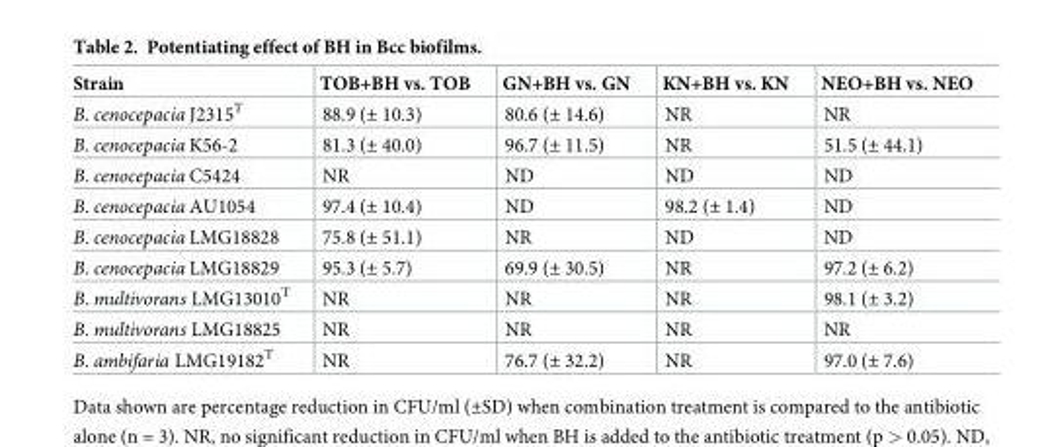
<table><thead><tr><td>Strain</td><td>TOB+BH vs. TOB</td><td>GN+BH vs. GN</td><td>KN+BH vs. KN</td><td>NEO+BH vs. NEO</td></tr></thead><tbody><tr><td>B. cenocepacia J2315<sup>T</sup></td><td>88.9 (± 10.3)</td><td>80.6 (± 14.6)</td><td>NR</td><td>NR</td></tr><tr><td>B. cenocepacia K56-2</td><td>81.3 (± 40.0)</td><td>96.7 (± 11.5)</td><td>NR</td><td>51.5 (± 44.1)</td></tr><tr><td>B. cenocepacia C5424</td><td>NR</td><td>ND</td><td>ND</td><td>ND</td></tr><tr><td>B. cenocepacia AU1054</td><td>97.4 (± 10.4)</td><td>ND</td><td>98.2 (± 1.4)</td><td>ND</td></tr><tr><td>B. cenocepacia LMG18828</td><td>75.8 (± 51.1)</td><td>NR</td><td>ND</td><td>ND</td></tr><tr><td>B. cenocepacia LMG18829</td><td>95.3 (± 5.7)</td><td>69.9 (± 30.5)</td><td>NR</td><td>97.2 (± 6.2)</td></tr><tr><td>B. multivorans LMG13010<sup>T</sup></td><td>NR</td><td>NR</td><td>NR</td><td>98.1 (± 3.2)</td></tr><tr><td>B. multivorans LMG18825</td><td>NR</td><td>NR</td><td>NR</td><td>NR</td></tr><tr><td>B. ambifaria LMG19182<sup>T</sup></td><td>NR</td><td>76.7 (± 32.2)</td><td>NR</td><td>97.0 (± 7.6)</td></tr></tbody></table>